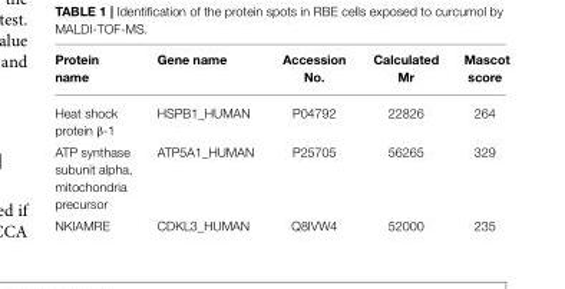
<table><thead><tr><td>Protein name</td><td>Gene name</td><td>Accession No.</td><td>Calculated Mr</td><td>Mascot score</td></tr></thead><tbody><tr><td>Heat shock protein β-1</td><td>HSPB1_HUMAN</td><td>P04792</td><td>22826</td><td>264</td></tr><tr><td>ATP synthase subunit alpha, mitochondria precursor</td><td>ATP5A1_HUMAN</td><td>P25705</td><td>56265</td><td>329</td></tr><tr><td>NKIAMRE</td><td>CDKL3_HUMAN</td><td>Q8IVW4</td><td>52000</td><td>235</td></tr></tbody></table>